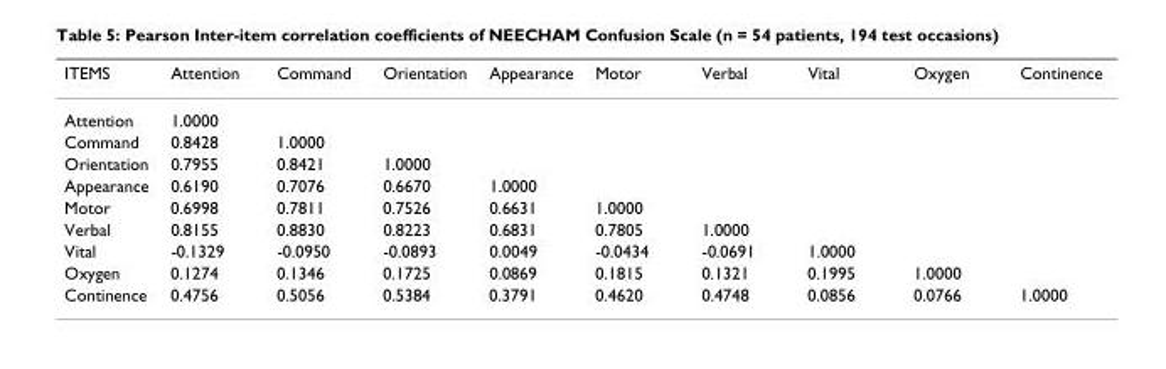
<table><thead><tr><td>ITEMS</td><td>Attention</td><td>Command</td><td>Orientation</td><td>Appearance</td><td>Motor</td><td>Verbal</td><td>Vital</td><td>Oxygen</td><td>Continence</td></tr></thead><tbody><tr><td>Attention</td><td>1.0000</td><td></td><td></td><td></td><td></td><td></td><td></td><td></td><td></td></tr><tr><td>Command</td><td>0.8428</td><td>1.0000</td><td></td><td></td><td></td><td></td><td></td><td></td><td></td></tr><tr><td>Orientation</td><td>0.7955</td><td>0.8421</td><td>1.0000</td><td></td><td></td><td></td><td></td><td></td><td></td></tr><tr><td>Appearance</td><td>0.6190</td><td>0.7076</td><td>0.6670</td><td>1.0000</td><td></td><td></td><td></td><td></td><td></td></tr><tr><td>Motor</td><td>0.6998</td><td>0.7811</td><td>0.7526</td><td>0.6631</td><td>1.0000</td><td></td><td></td><td></td><td></td></tr><tr><td>Verbal</td><td>0.8155</td><td>0.8830</td><td>0.8223</td><td>0.6831</td><td>0.7805</td><td>1.0000</td><td></td><td></td><td></td></tr><tr><td>Vital</td><td>-0.1329</td><td>-0.0950</td><td>-0.0893</td><td>0.0049</td><td>-0.0434</td><td>-0.0691</td><td>1.0000</td><td></td><td></td></tr><tr><td>Oxygen</td><td>0.1274</td><td>0.1346</td><td>0.1725</td><td>0.0869</td><td>0.1815</td><td>0.1321</td><td>0.1995</td><td>1.0000</td><td></td></tr><tr><td>Continence</td><td>0.4756</td><td>0.5056</td><td>0.5384</td><td>0.3791</td><td>0.4620</td><td>0.4748</td><td>0.0856</td><td>0.0766</td><td>1.0000</td></tr></tbody></table>